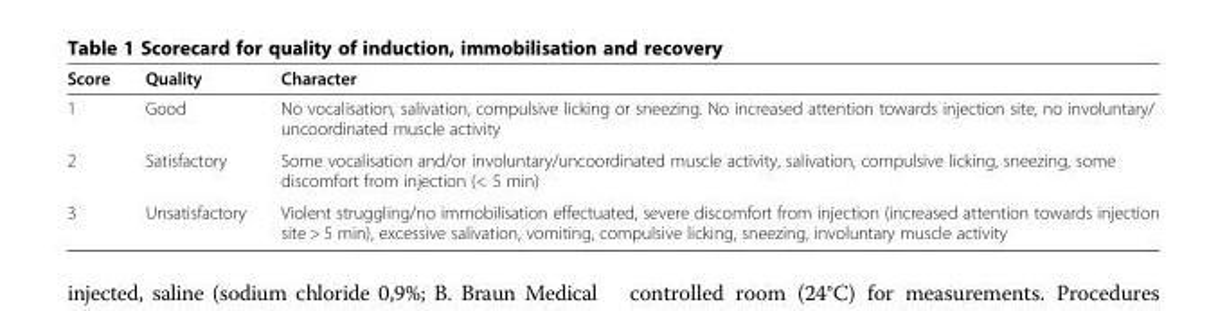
<table><thead><tr><td>Score</td><td>Quality</td><td>Character</td></tr></thead><tbody><tr><td>1</td><td>Good</td><td>No vocalisation, salivation, compulsive licking or sneezing. No increased attention towards injection site, no involuntary/ uncoordinated muscle activity</td></tr><tr><td>2</td><td>Satisfactory</td><td>Some vocalisation and/or involuntary/uncoordinated muscle activity, salivation, compulsive licking, sneezing, some discomfort from injection (&lt; 5 min)</td></tr><tr><td>3</td><td>Unsatisfactory</td><td>Violent struggling/no immobilisation effectuated, severe discomfort from injection (increased attention towards injection site &gt; 5 min), excessive salivation, vomiting, compulsive licking, sneezing, involuntary muscle activity</td></tr></tbody></table>